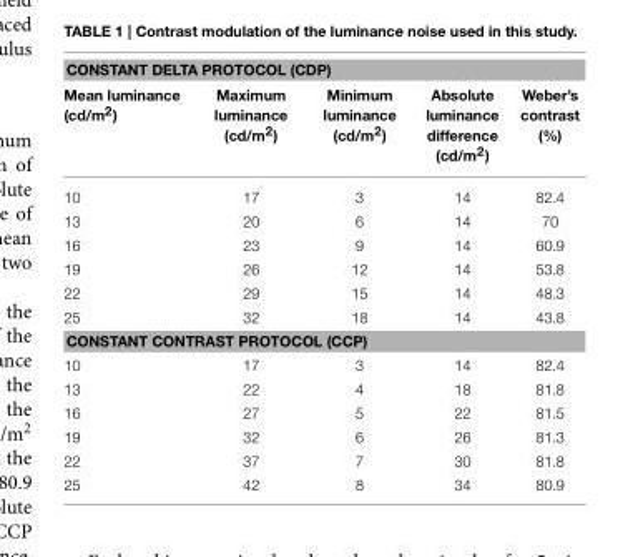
<table><thead><tr><td colspan="5">CONSTANT DELTA PROTOCOL (CDP)</td></tr><tr><td>Mean luminance (cd/m<sup>2</sup>)</td><td>Maximum luminance (cd/m<sup>2</sup>)</td><td>Minimum luminance (cd/m<sup>2</sup>)</td><td>Absolute luminance difference (cd/m<sup>2</sup>)</td><td>Weber’s contrast (%)</td></tr></thead><tbody><tr><td>10</td><td>17</td><td>3</td><td>14</td><td>82.4</td></tr><tr><td>13</td><td>20</td><td>6</td><td>14</td><td>70</td></tr><tr><td>16</td><td>23</td><td>9</td><td>14</td><td>60.9</td></tr><tr><td>19</td><td>26</td><td>12</td><td>14</td><td>53.8</td></tr><tr><td>22</td><td>29</td><td>15</td><td>14</td><td>48.3</td></tr><tr><td>25</td><td>32</td><td>18</td><td>14</td><td>43.8</td></tr><tr><td colspan="5">CONSTANT CONTRAST PROTOCOL (CCP)</td></tr><tr><td>10</td><td>17</td><td>3</td><td>14</td><td>82.4</td></tr><tr><td>13</td><td>22</td><td>4</td><td>18</td><td>81.8</td></tr><tr><td>16</td><td>27</td><td>5</td><td>22</td><td>81.5</td></tr><tr><td>19</td><td>32</td><td>6</td><td>26</td><td>81.3</td></tr><tr><td>22</td><td>37</td><td>7</td><td>30</td><td>81.8</td></tr><tr><td>25</td><td>42</td><td>8</td><td>34</td><td>80.9</td></tr></tbody></table>